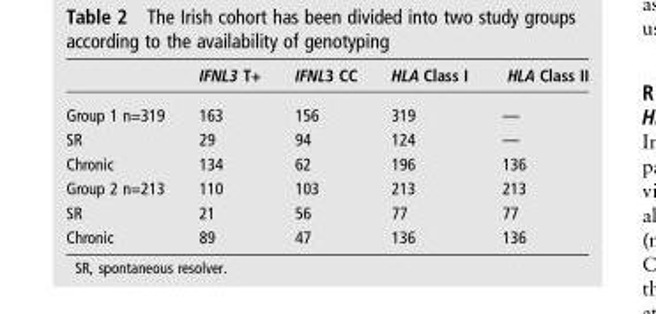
<table><thead><tr><td></td><td>IFNL3 T+</td><td>IFNL3 CC</td><td>HLA Class I</td><td>HLA Class II</td></tr></thead><tbody><tr><td>Group 1 n=319</td><td>163</td><td>156</td><td>319</td><td>—</td></tr><tr><td>SR</td><td>29</td><td>94</td><td>124</td><td>—</td></tr><tr><td>Chronic</td><td>134</td><td>62</td><td>196</td><td>136</td></tr><tr><td>Group 2 n=213</td><td>110</td><td>103</td><td>213</td><td>213</td></tr><tr><td>SR</td><td>21</td><td>56</td><td>77</td><td>77</td></tr><tr><td>Chronic</td><td>89</td><td>47</td><td>136</td><td>136</td></tr></tbody></table>